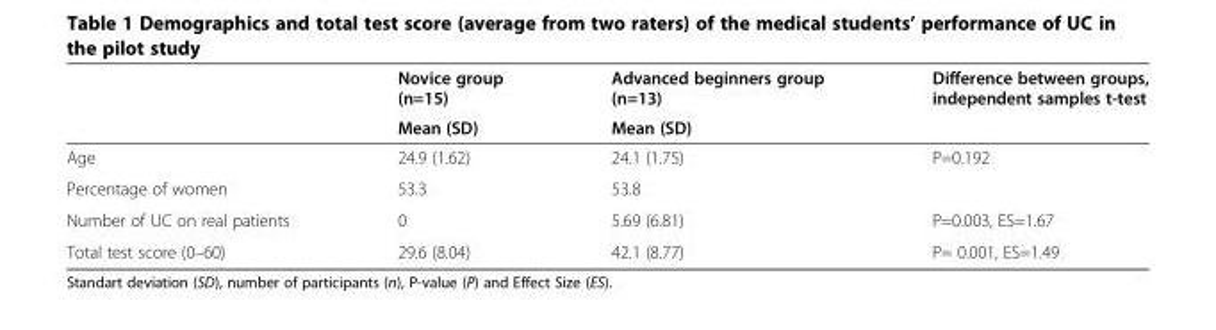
<table><thead><tr><td rowspan="2"></td><td rowspan="2">Novice group (n=15) Mean (SD)</td><td rowspan="2">Advanced beginners group (n=13) Mean (SD)</td><td rowspan="2">Difference between groups, independent samples t-test</td></tr><tr></tr></thead><tbody><tr><td>Age</td><td>24.9 (1.62)</td><td>24.1 (1.75)</td><td>P=0.192</td></tr><tr><td>Percentage of women</td><td>53.3</td><td>53.8</td><td></td></tr><tr><td>Number of UC on real patients</td><td>0</td><td>5.69 (6.81)</td><td>P=0.003, ES=1.67</td></tr><tr><td>Total test score (0–60)</td><td>29.6 (8.04)</td><td>42.1 (8.77)</td><td>P= 0.001, ES=1.49</td></tr></tbody></table>